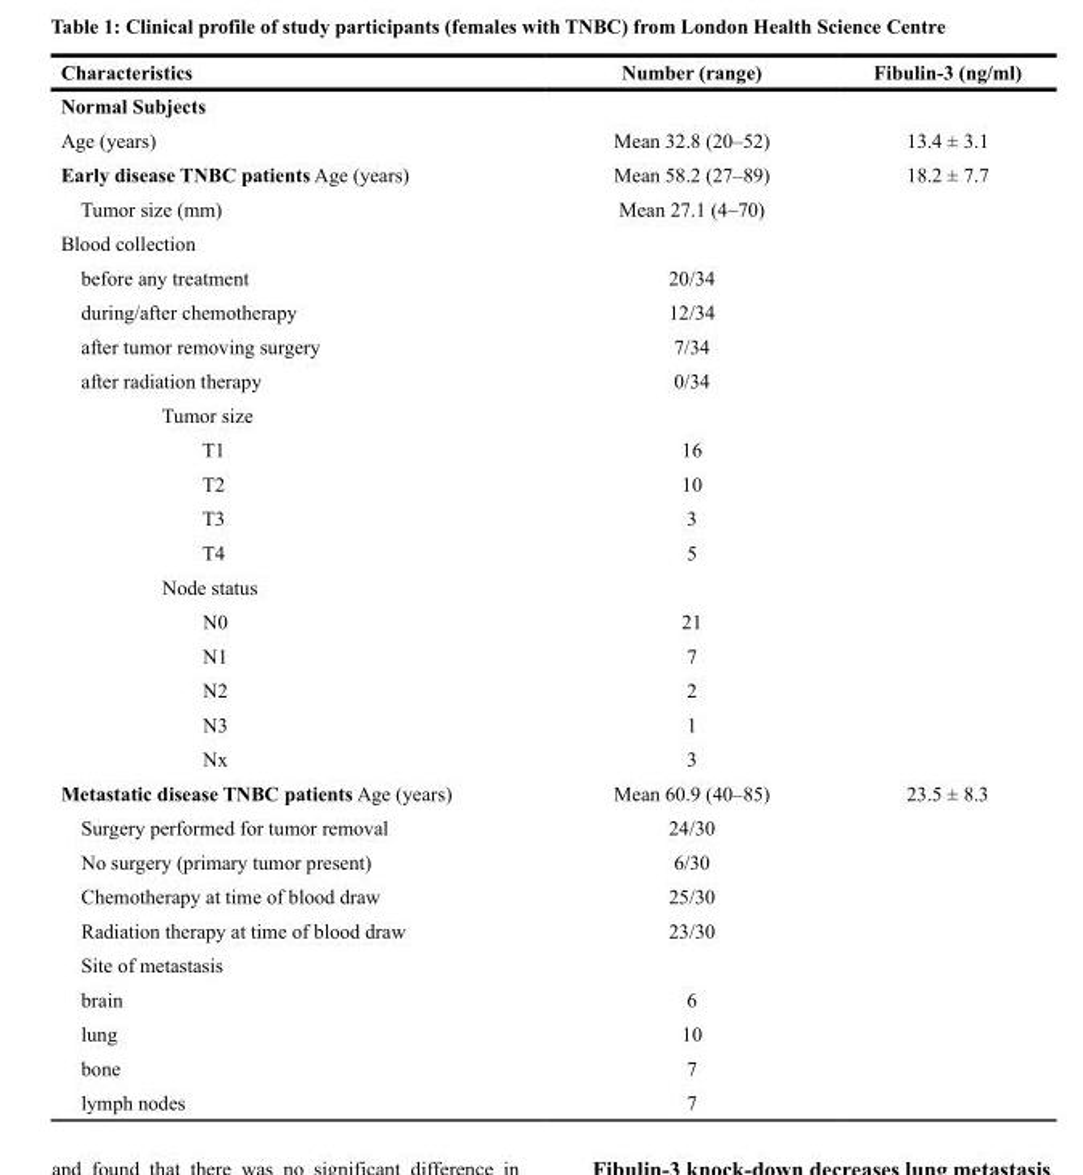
<table><thead><tr><td>characteristics</td><td>number (range)</td><td>Fibulin-3 (ng/ml)</td></tr></thead><tbody><tr><td colspan="3">normal subjects</td></tr><tr><td>Age (years)</td><td>Mean 32.8 (20–52)</td><td>13.4 ± 3.1</td></tr><tr><td>early disease tnbc patients Age (years)</td><td>Mean 58.2 (27–89)</td><td>18.2 ± 7.7</td></tr><tr><td>Tumor size (mm)</td><td>Mean 27.1 (4–70)</td><td></td></tr><tr><td colspan="3">Blood collection</td></tr><tr><td>before any treatment</td><td>20/34</td><td></td></tr><tr><td>during/after chemotherapy</td><td>12/34</td><td></td></tr><tr><td>after tumor removing surgery</td><td>7/34</td><td></td></tr><tr><td>after radiation therapy</td><td>0/34</td><td></td></tr><tr><td colspan="3">Tumor size</td></tr><tr><td>T1</td><td>16</td><td></td></tr><tr><td>T2</td><td>10</td><td></td></tr><tr><td>T3</td><td>3</td><td></td></tr><tr><td>T4</td><td>5</td><td></td></tr><tr><td colspan="3">Node status</td></tr><tr><td>N0</td><td>21</td><td></td></tr><tr><td>N1</td><td>7</td><td></td></tr><tr><td>N2</td><td>2</td><td></td></tr><tr><td>N3</td><td>1</td><td></td></tr><tr><td>Nx</td><td>3</td><td></td></tr><tr><td>Metastatic disease tnbc patients Age (years)</td><td>Mean 60.9 (40–85)</td><td>23.5 ± 8.3</td></tr><tr><td>Surgery performed for tumor removal</td><td>24/30</td><td></td></tr><tr><td>No surgery (primary tumor present)</td><td>6/30</td><td></td></tr><tr><td>Chemotherapy at time of blood draw</td><td>25/30</td><td></td></tr><tr><td>Radiation therapy at time of blood draw</td><td>23/30</td><td></td></tr><tr><td colspan="3">Site of metastasis</td></tr><tr><td>brain</td><td>6</td><td></td></tr><tr><td>lung</td><td>10</td><td></td></tr><tr><td>bone</td><td>7</td><td></td></tr><tr><td>lymph nodes</td><td>7</td><td></td></tr></tbody></table>